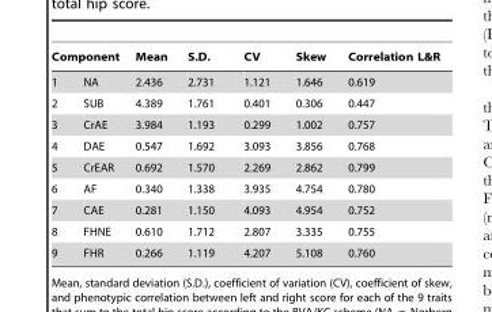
<table><thead><tr><td colspan="2">Component</td><td rowspan="2">Mean 2.436</td><td rowspan="2">S.D. 2.731</td><td rowspan="2">CV 1.121</td><td rowspan="2">Skew 1.646</td><td rowspan="2">Correlation L&amp;R 0.619</td></tr><tr><td>1</td><td>NA</td></tr></thead><tbody><tr><td>2</td><td>SUB</td><td>4.389</td><td>1.761</td><td>0.401</td><td>0.306</td><td>0.447</td></tr><tr><td>3</td><td>CrAE</td><td>3.984</td><td>1.193</td><td>0.299</td><td>1.002</td><td>0.757</td></tr><tr><td>4</td><td>DAE</td><td>0.547</td><td>1.692</td><td>3.093</td><td>3.856</td><td>0.768</td></tr><tr><td>5</td><td>CrEAR</td><td>0.692</td><td>1.570</td><td>2.269</td><td>2.862</td><td>0.799</td></tr><tr><td>6</td><td>AF</td><td>0.340</td><td>1.338</td><td>3.935</td><td>4.754</td><td>0.780</td></tr><tr><td>7</td><td>CAE</td><td>0.281</td><td>1.150</td><td>4.093</td><td>4.954</td><td>0.752</td></tr><tr><td>8</td><td>FHNE</td><td>0.610</td><td>1.712</td><td>2.807</td><td>3.335</td><td>0.755</td></tr><tr><td>9</td><td>FHR</td><td>0.266</td><td>1.119</td><td>4.207</td><td>5.108</td><td>0.760</td></tr></tbody></table>